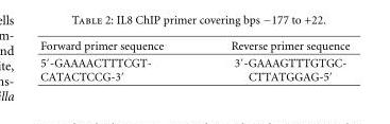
<table><thead><tr><td>Forward primer sequence</td><td>Reverse primer sequence</td></tr></thead><tbody><tr><td>5′-GAAAACTTTCGT- CATACTCCG-3′</td><td>3′-GAAAGTTTGTGC- CTTATGGAG-5′</td></tr></tbody></table>